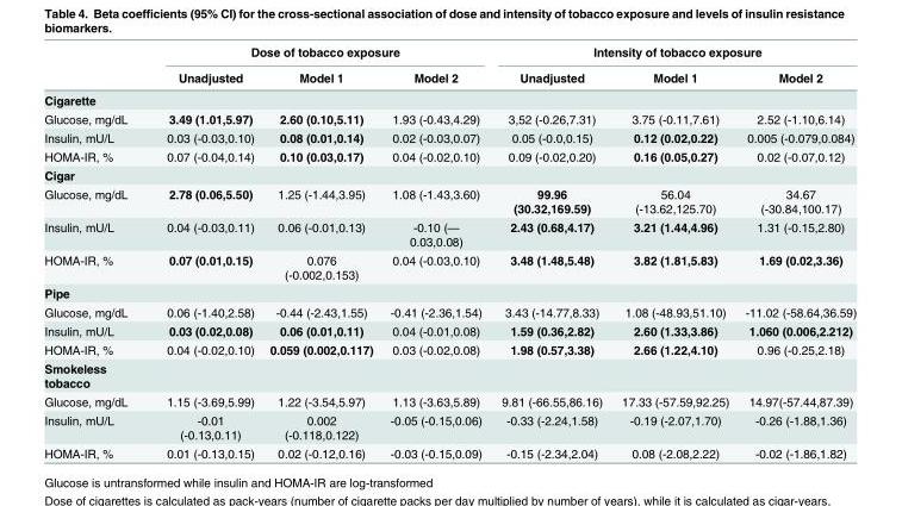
<table><thead><tr><td rowspan="2"></td><td colspan="3">Dose of tobacco exposure</td><td colspan="3">Intensity of tobacco exposure</td></tr><tr><td>Unadjusted</td><td>Model 1</td><td>Model 2</td><td>Unadjusted</td><td>Model 1</td><td>Model 2</td></tr></thead><tbody><tr><td colspan="7">Cigarette</td></tr><tr><td>Glucose, mg/dL</td><td>3.49 (1.01,5.97)</td><td>2.60 (0.10,5.11)</td><td>1.93 (-0.43,4.29)</td><td>3,52 (-0.26,7.31)</td><td>3.75 (-0.11,7.61)</td><td>2.52 (-1.10,6.14)</td></tr><tr><td>Insulin, mU/L</td><td>0.03 (-0.03,0.10)</td><td>0.08 (0.01,0.14)</td><td>0.02 (-0.03,0.07)</td><td>0.05 (-0.0,0.15)</td><td>0.12 (0.02,0.22)</td><td>0.005 (-0.079,0.084)</td></tr><tr><td>HOMA-IR, %</td><td>0.07 (-0.04,0.14)</td><td>0.10 (0.03,0.17)</td><td>0.04 (-0.02,0.10)</td><td>0.09 (-0.02,0.20)</td><td>0.16 (0.05,0.27)</td><td>0.02 (-0.07,0.12)</td></tr><tr><td colspan="7">Cigar</td></tr><tr><td>Glucose, mg/dL</td><td>2.78 (0.06,5.50)</td><td>1.25 (-1.44,3.95)</td><td>1.08 (-1.43,3.60)</td><td>99.96 (30.32,169.59)</td><td>56.04 (-13.62,125.70)</td><td>34.67 (-30.84,100.17)</td></tr><tr><td>Insulin, mU/L</td><td>0.04 (-0.03,0.11)</td><td>0.06 (-0.01,0.13)</td><td>-0.10 (— 0.03,0.08)</td><td>2.43 (0.68,4.17)</td><td>3.21 (1.44,4.96)</td><td>1.31 (-0.15,2.80)</td></tr><tr><td>HOMA-IR, %</td><td>0.07 (0.01,0.15)</td><td>0.076 (-0.002,0.153)</td><td>0.04 (-0.03,0.10)</td><td>3.48 (1.48,5.48)</td><td>3.82 (1.81,5.83)</td><td>1.69 (0.02,3.36)</td></tr><tr><td colspan="7">Pipe</td></tr><tr><td>Glucose, mg/dL</td><td>0.06 (-1.40,2.58)</td><td>-0.44 (-2.43,1.55)</td><td>-0.41 (-2.36,1.54)</td><td>3.43 (-14.77,8.33)</td><td>1.08 (-48.93,51.10)</td><td>-11.02 (-58.64,36.59)</td></tr><tr><td>Insulin, mU/L</td><td>0.03 (0.02,0.08)</td><td>0.06 (0.01,0.11)</td><td>0.04 (-0.01,0.08)</td><td>1.59 (0.36,2.82)</td><td>2.60 (1.33,3.86)</td><td>1.060 (0.006,2.212)</td></tr><tr><td>HOMA-IR, %</td><td>0.04 (-0.02,0.10)</td><td>0.059 (0.002,0.117)</td><td>0.03 (-0.02,0.08)</td><td>1.98 (0.57,3.38)</td><td>2.66 (1.22,4.10)</td><td>0.96 (-0.25,2.18)</td></tr><tr><td colspan="7">Smokeless tobacco</td></tr><tr><td>Glucose, mg/dL</td><td>1.15 (-3.69,5.99)</td><td>1.22 (-3.54,5.97)</td><td>1.13 (-3.63,5.89)</td><td>9.81 (-66.55,86.16)</td><td>17.33 (-57.59,92.25)</td><td>14.97(-57.44,87.39)</td></tr><tr><td>Insulin, mU/L</td><td>-0.01 (-0.13,0.11)</td><td>0.002 (-0.118,0.122)</td><td>-0.05 (-0.15,0.06)</td><td>-0.33 (-2.24,1.58)</td><td>-0.19 (-2.07,1.70)</td><td>-0.26 (-1.88,1.36)</td></tr><tr><td>HOMA-IR, %</td><td>0.01 (-0.13,0.15)</td><td>0.02 (-0.12,0.16)</td><td>-0.03 (-0.15,0.09)</td><td>-0.15 (-2.34,2.04)</td><td>0.08 (-2.08,2.22)</td><td>-0.02 (-1.86,1.82)</td></tr></tbody></table>